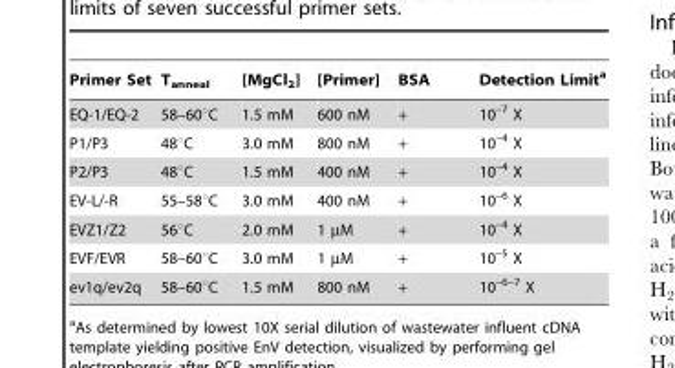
<table><thead><tr><td>Primer Set</td><td>T<sub>anneal</sub></td><td>[MgCl<sub>2</sub>]</td><td>[Primer]</td><td>BSA</td><td>Detection Limit<sup>a</sup></td></tr></thead><tbody><tr><td>EQ-1/EQ-2</td><td>58–60°C</td><td>1.5 mM</td><td>600 nM</td><td>+</td><td>10<sup>–7</sup> X</td></tr><tr><td>P1/P3</td><td>48°C</td><td>3.0 mM</td><td>800 nM</td><td>+</td><td>10<sup>–4</sup> X</td></tr><tr><td>P2/P3</td><td>48°C</td><td>1.5 mM</td><td>400 nM</td><td>+</td><td>10<sup>–4</sup> X</td></tr><tr><td>EV-L/-R</td><td>55–58°C</td><td>3.0 mM</td><td>400 nM</td><td>+</td><td>10<sup>–6</sup> X</td></tr><tr><td>EVZ1/Z2</td><td>56°C</td><td>2.0 mM</td><td>1 µM</td><td>+</td><td>10<sup>–4</sup> X</td></tr><tr><td>EVF/EVR</td><td>58–60°C</td><td>3.0 mM</td><td>1 µM</td><td>+</td><td>10<sup>–5</sup> X</td></tr><tr><td>ev1q/ev2q</td><td>58–60°C</td><td>1.5 mM</td><td>800 nM</td><td>+</td><td>10<sup>–6–7</sup> X</td></tr></tbody></table>